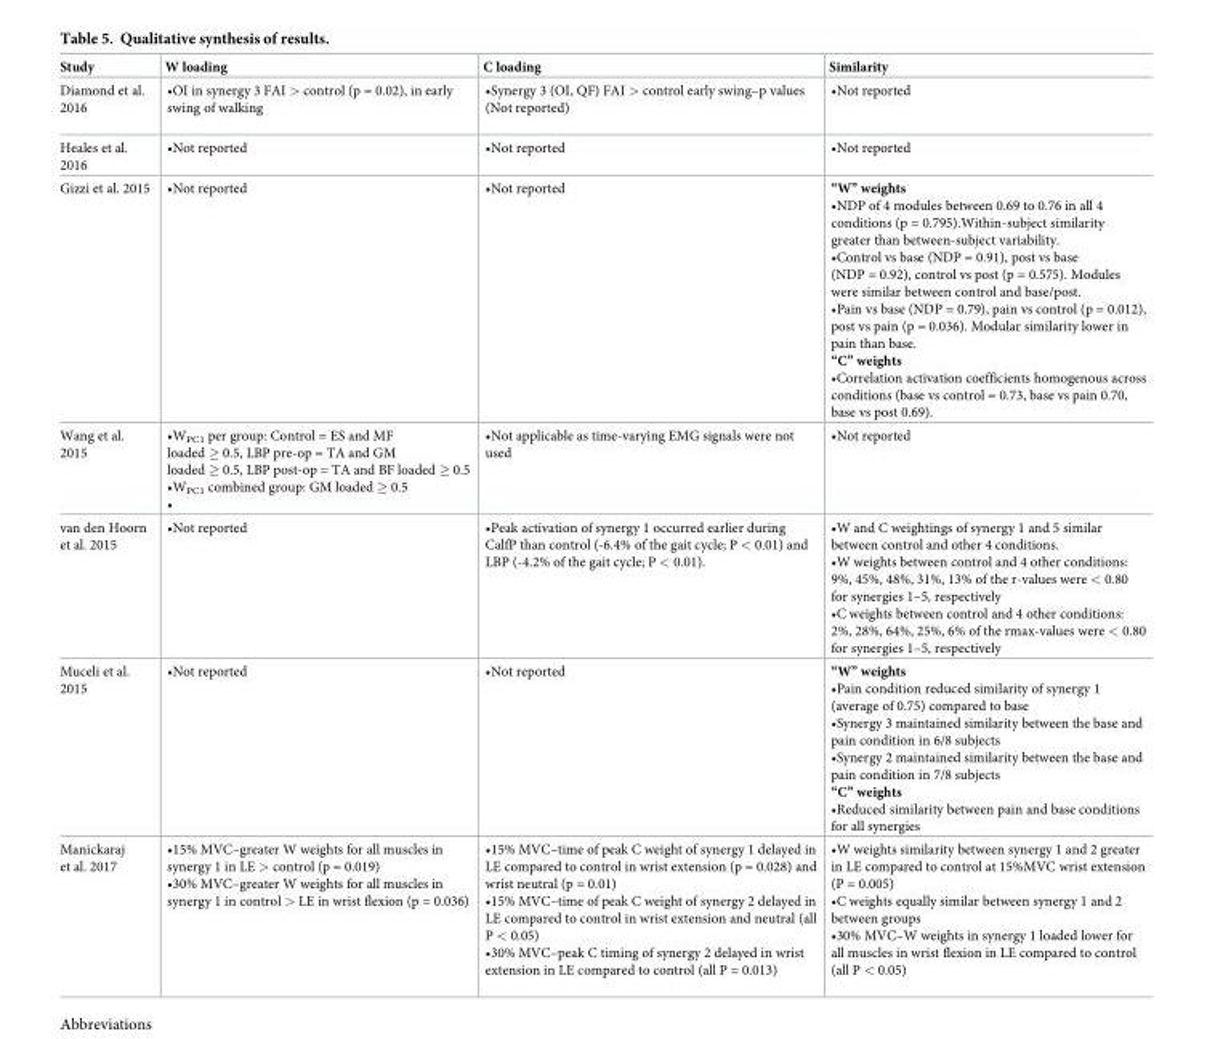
<table><thead><tr><td>Study</td><td>W loading</td><td>C loading</td><td>Similarity</td></tr></thead><tbody><tr><td>Diamond et al. 2016</td><td>•OI in synergy 3 FAI &gt; control (p = 0.02), in early swing of walking</td><td>•Synergy 3 (OI, QF) FAI &gt; control early swing–p values (Not reported)</td><td>•Not reported</td></tr><tr><td>Heales et al. 2016</td><td>•Not reported</td><td>•Not reported</td><td>•Not reported</td></tr><tr><td>Gizzi et al. 2015</td><td>•Not reported</td><td>•Not reported</td><td>“W” weights •NDP of 4 modules between 0.69 to 0.76 in all 4 conditions (p = 0.795).Within-subject similarity greater than between-subject variability. •Control vs base (NDP = 0.91), post vs base (NDP = 0.92), control vs post (p = 0.575). Modules were similar between control and base/post. •Pain vs base (NDP = 0.79), pain vs control (p = 0.012), post vs pain (p = 0.036). Modular similarity lower in pain than base. “C” weights •Correlation activation coefficients homogenous across conditions (base vs control = 0.73, base vs pain 0.70, base vs post 0.69).</td></tr><tr><td>Wang et al. 2015</td><td>•W<sub>PC1</sub> per group: Control = ES and MF loaded ≥ 0.5, LBP pre-op = TA and GM loaded ≥ 0.5, LBP post-op = TA and BF loaded ≥ 0.5 •W<sub>PC1</sub> combined group: GM loaded ≥ 0.5 •</td><td>•Not applicable as time-varying EMG signals were not used</td><td>•Not reported</td></tr><tr><td>van den Hoorn et al. 2015</td><td>•Not reported</td><td>•Peak activation of synergy 1 occurred earlier during CalfP than control (-6.4% of the gait cycle; P &lt; 0.01) and LBP (-4.2% of the gait cycle; P &lt; 0.01).</td><td>•W and C weightings of synergy 1 and 5 similar between control and other 4 conditions. •W weights between control and 4 other conditions: 9%, 45%, 48%, 31%, 13% of the r-values were &lt; 0.80 for synergies 1–5, respectively •C weights between control and 4 other conditions: 2%, 28%, 64%, 25%, 6% of the rmax-values were &lt; 0.80 for synergies 1–5, respectively</td></tr><tr><td>Muceli et al. 2015</td><td>•Not reported</td><td>•Not reported</td><td>“W” weights •Pain condition reduced similarity of synergy 1 (average of 0.75) compared to base •Synergy 3 maintained similarity between the base and pain condition in 6/8 subjects •Synergy 2 maintained similarity between the base and pain condition in 7/8 subjects “C” weights •Reduced similarity between pain and base conditions for all synergies</td></tr><tr><td>Manickaraj et al. 2017</td><td>•15% MVC–greater W weights for all muscles in synergy 1 in LE &gt; control (p = 0.019) •30% MVC–greater W weights for all muscles in synergy 1 in control &gt; LE in wrist flexion (p = 0.036)</td><td>•15% MVC–time of peak C weight of synergy 1 delayed in LE compared to control in wrist extension (p = 0.028) and wrist neutral (p = 0.01) •15% MVC–time of peak C weight of synergy 2 delayed in LE compared to control in wrist extension and neutral (all P &lt; 0.05) •30% MVC–peak C timing of synergy 2 delayed in wrist extension in LE compared to control (all P = 0.013)</td><td>•W weights similarity between synergy 1 and 2 greater in LE compared to control at 15%MVC wrist extension (P = 0.005) •C weights equally similar between synergy 1 and 2 between groups •30% MVC–W weights in synergy 1 loaded lower for all muscles in wrist flexion in LE compared to control (all P &lt; 0.05)</td></tr></tbody></table>